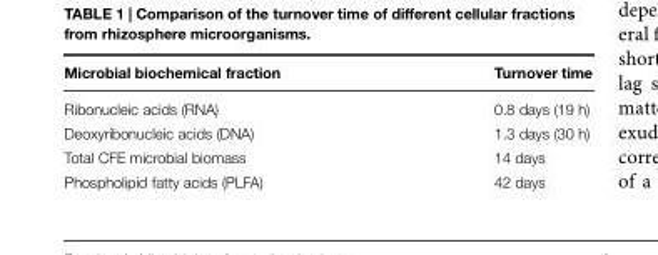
<table><thead><tr><td>Microbial biochemical fraction</td><td>Turnover time</td></tr></thead><tbody><tr><td>Ribonucleic acids (RNA)</td><td>0.8 days (19 h)</td></tr><tr><td>Deoxyribonucleic acids (DNA)</td><td>1.3 days (30 h)</td></tr><tr><td>Total CFE microbial biomass</td><td>14 days</td></tr><tr><td>Phospholipid fatty acids (PLFA)</td><td>42 days</td></tr></tbody></table>